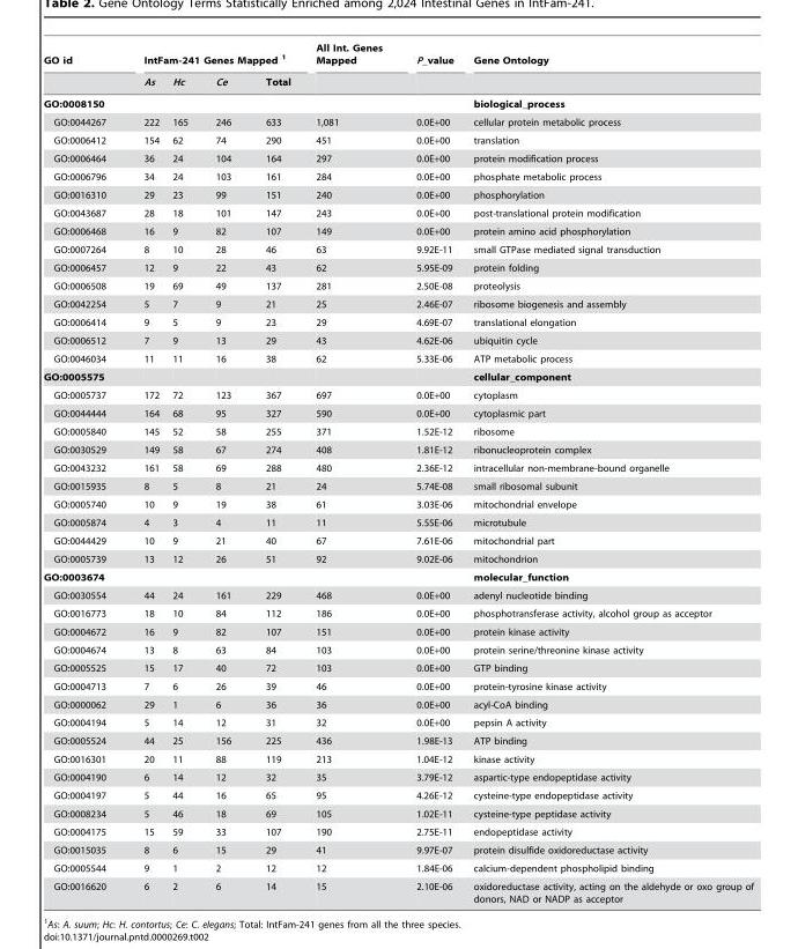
<table><thead><tr><td rowspan="2">GO id</td><td colspan="4">IntFam-241 Genes Mapped 1</td><td rowspan="2">All Int. Genes Mapped</td><td rowspan="2">P_value</td><td rowspan="2">Gene Ontology</td></tr><tr><td>As</td><td>Hc</td><td>Ce</td><td>Total</td></tr></thead><tbody><tr><td>GO:0008150</td><td></td><td></td><td></td><td></td><td></td><td></td><td>biological_process</td></tr><tr><td>GO:0044267</td><td>222</td><td>165</td><td>246</td><td>633</td><td>1,081</td><td>0.0E+00</td><td>cellular protein metabolic process</td></tr><tr><td>GO:0006412</td><td>154</td><td>62</td><td>74</td><td>290</td><td>451</td><td>0.0E+00</td><td>translation</td></tr><tr><td>GO:0006464</td><td>36</td><td>24</td><td>104</td><td>164</td><td>297</td><td>0.0E+00</td><td>protein modification process</td></tr><tr><td>GO:0006796</td><td>34</td><td>24</td><td>103</td><td>161</td><td>284</td><td>0.0E+00</td><td>phosphate metabolic process</td></tr><tr><td>GO:0016310</td><td>29</td><td>23</td><td>99</td><td>151</td><td>240</td><td>0.0E+00</td><td>phosphorylation</td></tr><tr><td>GO:0043687</td><td>28</td><td>18</td><td>101</td><td>147</td><td>243</td><td>0.0E+00</td><td>post-translational protein modification</td></tr><tr><td>GO:0006468</td><td>16</td><td>9</td><td>82</td><td>107</td><td>149</td><td>0.0E+00</td><td>protein amino acid phosphorylation</td></tr><tr><td>GO:0007264</td><td>8</td><td>10</td><td>28</td><td>46</td><td>63</td><td>9.92E-11</td><td>small GTPase mediated signal transduction</td></tr><tr><td>GO:0006457</td><td>12</td><td>9</td><td>22</td><td>43</td><td>62</td><td>5.95E-09</td><td>protein folding</td></tr><tr><td>GO:0006508</td><td>19</td><td>69</td><td>49</td><td>137</td><td>281</td><td>2.50E-08</td><td>proteolysis</td></tr><tr><td>GO:0042254</td><td>5</td><td>7</td><td>9</td><td>21</td><td>25</td><td>2.46E-07</td><td>ribosome biogenesis and assembly</td></tr><tr><td>GO:0006414</td><td>9</td><td>5</td><td>9</td><td>23</td><td>29</td><td>4.69E-07</td><td>translational elongation</td></tr><tr><td>GO:0006512</td><td>7</td><td>9</td><td>13</td><td>29</td><td>43</td><td>4.62E-06</td><td>ubiquitin cycle</td></tr><tr><td>GO:0046034</td><td>11</td><td>11</td><td>16</td><td>38</td><td>62</td><td>5.33E-06</td><td>ATP metabolic process</td></tr><tr><td>GO:0005575</td><td></td><td></td><td></td><td></td><td></td><td></td><td>cellular_component</td></tr><tr><td>GO:0005737</td><td>172</td><td>72</td><td>123</td><td>367</td><td>697</td><td>0.0E+00</td><td>cytoplasm</td></tr><tr><td>GO:0044444</td><td>164</td><td>68</td><td>95</td><td>327</td><td>590</td><td>0.0E+00</td><td>cytoplasmic part</td></tr><tr><td>GO:0005840</td><td>145</td><td>52</td><td>58</td><td>255</td><td>371</td><td>1.52E-12</td><td>ribosome</td></tr><tr><td>GO:0030529</td><td>149</td><td>58</td><td>67</td><td>274</td><td>408</td><td>1.81E-12</td><td>ribonucleoprotein complex</td></tr><tr><td>GO:0043232</td><td>161</td><td>58</td><td>69</td><td>288</td><td>480</td><td>2.36E-12</td><td>intracellular non-membrane-bound organelle</td></tr><tr><td>GO:0015935</td><td>8</td><td>5</td><td>8</td><td>21</td><td>24</td><td>5.74E-08</td><td>small ribosomal subunit</td></tr><tr><td>GO:0005740</td><td>10</td><td>9</td><td>19</td><td>38</td><td>61</td><td>3.03E-06</td><td>mitochondrial envelope</td></tr><tr><td>GO:0005874</td><td>4</td><td>3</td><td>4</td><td>11</td><td>11</td><td>5.55E-06</td><td>microtubule</td></tr><tr><td>GO:0044429</td><td>10</td><td>9</td><td>21</td><td>40</td><td>67</td><td>7.61E-06</td><td>mitochondrial part</td></tr><tr><td>GO:0005739</td><td>13</td><td>12</td><td>26</td><td>51</td><td>92</td><td>9.02E-06</td><td>mitochondrion</td></tr><tr><td>GO:0003674</td><td></td><td></td><td></td><td></td><td></td><td></td><td>molecular_function</td></tr><tr><td>GO:0030554</td><td>44</td><td>24</td><td>161</td><td>229</td><td>468</td><td>0.0E+00</td><td>adenyl nucleotide binding</td></tr><tr><td>GO:0016773</td><td>18</td><td>10</td><td>84</td><td>112</td><td>186</td><td>0.0E+00</td><td>phosphotransferase activity, alcohol group as acceptor</td></tr><tr><td>GO:0004672</td><td>16</td><td>9</td><td>82</td><td>107</td><td>151</td><td>0.0E+00</td><td>protein kinase activity</td></tr><tr><td>GO:0004674</td><td>13</td><td>8</td><td>63</td><td>84</td><td>103</td><td>0.0E+00</td><td>protein serine/threonine kinase activity</td></tr><tr><td>GO:0005525</td><td>15</td><td>17</td><td>40</td><td>72</td><td>103</td><td>0.0E+00</td><td>GTP binding</td></tr><tr><td>GO:0004713</td><td>7</td><td>6</td><td>26</td><td>39</td><td>46</td><td>0.0E+00</td><td>protein-tyrosine kinase activity</td></tr><tr><td>GO:0000062</td><td>29</td><td>1</td><td>6</td><td>36</td><td>36</td><td>0.0E+00</td><td>acyl-CoA binding</td></tr><tr><td>GO:0004194</td><td>5</td><td>14</td><td>12</td><td>31</td><td>32</td><td>0.0E+00</td><td>pepsin A activity</td></tr><tr><td>GO:0005524</td><td>44</td><td>25</td><td>156</td><td>225</td><td>436</td><td>1.98E-13</td><td>ATP binding</td></tr><tr><td>GO:0016301</td><td>20</td><td>11</td><td>88</td><td>119</td><td>213</td><td>1.04E-12</td><td>kinase activity</td></tr><tr><td>GO:0004190</td><td>6</td><td>14</td><td>12</td><td>32</td><td>35</td><td>3.79E-12</td><td>aspartic-type endopeptidase activity</td></tr><tr><td>GO:0004197</td><td>5</td><td>44</td><td>16</td><td>65</td><td>95</td><td>4.26E-12</td><td>cysteine-type endopeptidase activity</td></tr><tr><td>GO:0008234</td><td>5</td><td>46</td><td>18</td><td>69</td><td>105</td><td>1.02E-11</td><td>cysteine-type peptidase activity</td></tr><tr><td>GO:0004175</td><td>15</td><td>59</td><td>33</td><td>107</td><td>190</td><td>2.75E-11</td><td>endopeptidase activity</td></tr><tr><td>GO:0015035</td><td>8</td><td>6</td><td>15</td><td>29</td><td>41</td><td>9.97E-07</td><td>protein disulfide oxidoreductase activity</td></tr><tr><td>GO:0005544</td><td>9</td><td>1</td><td>2</td><td>12</td><td>12</td><td>1.84E-06</td><td>calcium-dependent phospholipid binding</td></tr><tr><td>GO:0016620</td><td>6</td><td>2</td><td>6</td><td>14</td><td>15</td><td>2.10E-06</td><td>oxidoreductase activity, acting on the aldehyde or oxo group of donors, NAD or NADP as acceptor</td></tr></tbody></table>